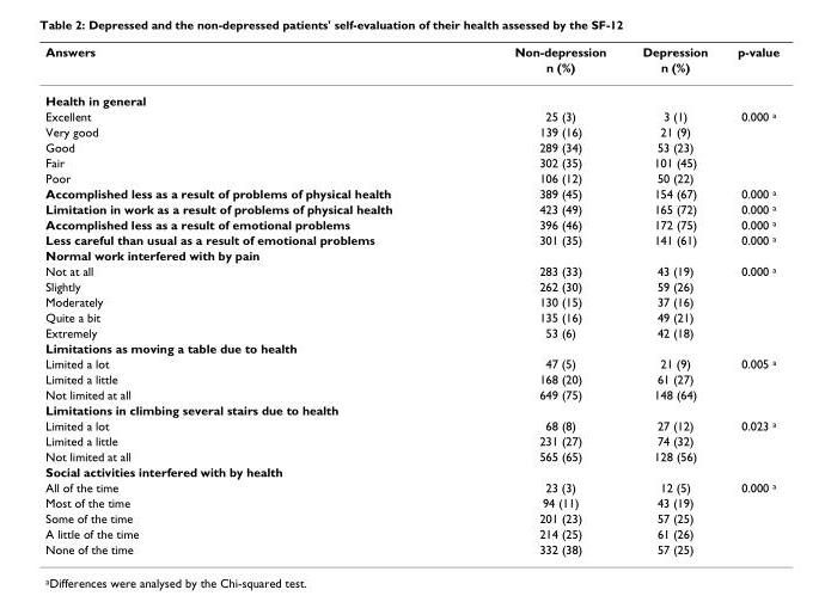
<table><thead><tr><td rowspan="2">Answers</td><td rowspan="2">Non-depression n (%)</td><td rowspan="2">Depression n (%)</td><td rowspan="2">p-value</td></tr><tr></tr></thead><tbody><tr><td colspan="4">Health in general</td></tr><tr><td>Excellent</td><td>25 (3)</td><td>3 (1)</td><td>0.000 <sup>a</sup></td></tr><tr><td>Very good</td><td>139 (16)</td><td>21 (9)</td><td></td></tr><tr><td>Good</td><td>289 (34)</td><td>53 (23)</td><td></td></tr><tr><td>Fair</td><td>302 (35)</td><td>101 (45)</td><td></td></tr><tr><td>Poor</td><td>106 (12)</td><td>50 (22)</td><td></td></tr><tr><td>Accomplished less as a result of problems of physical health</td><td>389 (45)</td><td>154 (67)</td><td>0.000 <sup>a</sup></td></tr><tr><td>Limitation in work as a result of problems of physical health</td><td>423 (49)</td><td>165 (72)</td><td>0.000 <sup>a</sup></td></tr><tr><td>Accomplished less as a result of emotional problems</td><td>396 (46)</td><td>172 (75)</td><td>0.000 <sup>a</sup></td></tr><tr><td>Less careful than usual as a result of emotional problems</td><td>301 (35)</td><td>141 (61)</td><td>0.000 <sup>a</sup></td></tr><tr><td colspan="4">Normal work interfered with by pain</td></tr><tr><td>Not at all</td><td>283 (33)</td><td>43 (19)</td><td>0.000 <sup>a</sup></td></tr><tr><td>Slightly</td><td>262 (30)</td><td>59 (26)</td><td></td></tr><tr><td>Moderately</td><td>130 (15)</td><td>37 (16)</td><td></td></tr><tr><td>Quite a bit</td><td>135 (16)</td><td>49 (21)</td><td></td></tr><tr><td>Extremely</td><td>53 (6)</td><td>42 (18)</td><td></td></tr><tr><td colspan="4">Limitations as moving a table due to health</td></tr><tr><td>Limited a lot</td><td>47 (5)</td><td>21 (9)</td><td>0.005 <sup>a</sup></td></tr><tr><td>Limited a little</td><td>168 (20)</td><td>61 (27)</td><td></td></tr><tr><td>Not limited at all</td><td>649 (75)</td><td>148 (64)</td><td></td></tr><tr><td colspan="4">Limitations in climbing several stairs due to health</td></tr><tr><td>Limited a lot</td><td>68 (8)</td><td>27 (12)</td><td>0.023 <sup>a</sup></td></tr><tr><td>Limited a little</td><td>231 (27)</td><td>74 (32)</td><td></td></tr><tr><td>Not limited at all</td><td>565 (65)</td><td>128 (56)</td><td></td></tr><tr><td colspan="4">Social activities interfered with by health</td></tr><tr><td>All of the time</td><td>23 (3)</td><td>12 (5)</td><td>0.000 <sup>a</sup></td></tr><tr><td>Most of the time</td><td>94 (11)</td><td>43 (19)</td><td></td></tr><tr><td>Some of the time</td><td>201 (23)</td><td>57 (25)</td><td></td></tr><tr><td>A little of the time</td><td>214 (25)</td><td>61 (26)</td><td></td></tr><tr><td>None of the time</td><td>332 (38)</td><td>57 (25)</td><td></td></tr></tbody></table>